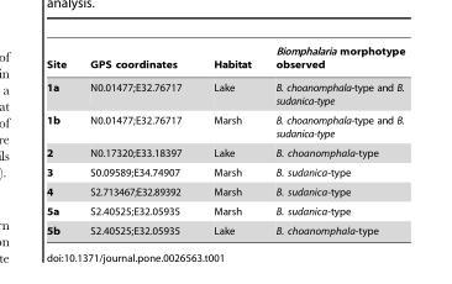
<table><thead><tr><td>Site</td><td>GPS coordinates</td><td>Habitat</td><td>Biomphalaria morphotype observed</td></tr></thead><tbody><tr><td>1a</td><td>N0.01477;E32.76717</td><td>Lake</td><td>B. choanomphala-type and B. sudanica-type</td></tr><tr><td>1b</td><td>N0.01477;E32.76717</td><td>Marsh</td><td>B. choanomphala-type and B. sudanica-type</td></tr><tr><td>2</td><td>N0.17320;E33.18397</td><td>Lake</td><td>B. choanomphala-type</td></tr><tr><td>3</td><td>S0.09589;E34.74907</td><td>Marsh</td><td>B. sudanica-type</td></tr><tr><td>4</td><td>S2.713467;E32.89392</td><td>Marsh</td><td>B. sudanica-type</td></tr><tr><td>5a</td><td>S2.40525;E32.05935</td><td>Marsh</td><td>B. sudanica-type</td></tr><tr><td>5b</td><td>S2.40525;E32.05935</td><td>Lake</td><td>B. choanomphala-type</td></tr></tbody></table>